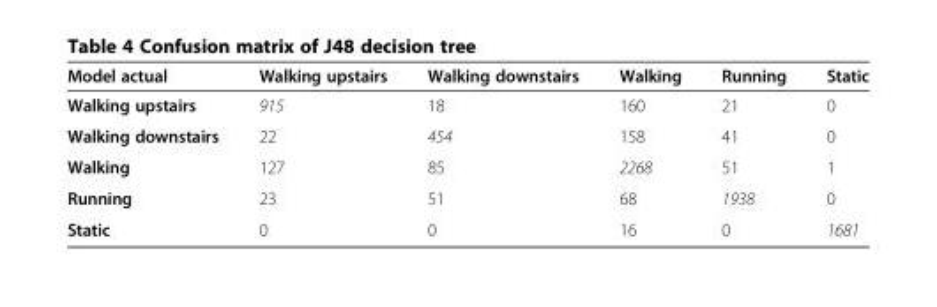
<table><thead><tr><td>Model actual</td><td>Walking upstairs</td><td>Walking downstairs</td><td>Walking</td><td>Running</td><td>Static</td></tr></thead><tbody><tr><td>Walking upstairs</td><td>915</td><td>18</td><td>160</td><td>21</td><td>0</td></tr><tr><td>Walking downstairs</td><td>22</td><td>454</td><td>158</td><td>41</td><td>0</td></tr><tr><td>Walking</td><td>127</td><td>85</td><td>2268</td><td>51</td><td>1</td></tr><tr><td>Running</td><td>23</td><td>51</td><td>68</td><td>1938</td><td>0</td></tr><tr><td>Static</td><td>0</td><td>0</td><td>16</td><td>0</td><td>1681</td></tr></tbody></table>